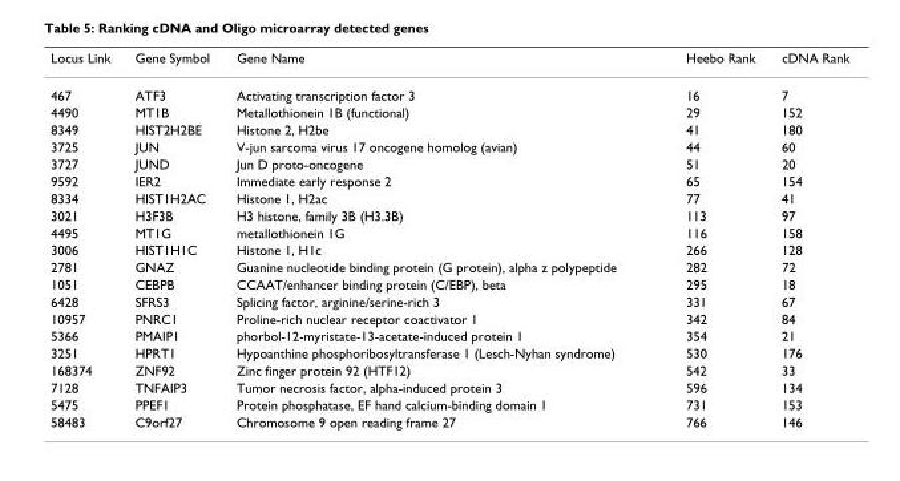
<table><thead><tr><td>Locus Link</td><td>Gene Symbol</td><td>Gene Name</td><td>Heebo Rank</td><td>cDNA Rank</td></tr></thead><tbody><tr><td>467</td><td>ATF3</td><td>Activating transcription factor 3</td><td>16</td><td>7</td></tr><tr><td>4490</td><td>MT1B</td><td>Metallothionein 1B (functional)</td><td>29</td><td>152</td></tr><tr><td>8349</td><td>HIST2H2BE</td><td>Histone 2, H2be</td><td>41</td><td>180</td></tr><tr><td>3725</td><td>JUN</td><td>V-jun sarcoma virus 17 oncogene homolog (avian)</td><td>44</td><td>60</td></tr><tr><td>3727</td><td>JUND</td><td>Jun D proto-oncogene</td><td>51</td><td>20</td></tr><tr><td>9592</td><td>IER2</td><td>Immediate early response 2</td><td>65</td><td>154</td></tr><tr><td>8334</td><td>HIST1H2AC</td><td>Histone 1, H2ac</td><td>77</td><td>41</td></tr><tr><td>3021</td><td>H3F3B</td><td>H3 histone, family 3B (H3.3B)</td><td>113</td><td>97</td></tr><tr><td>4495</td><td>MT1G</td><td>metallothionein 1G</td><td>116</td><td>158</td></tr><tr><td>3006</td><td>HIST1H1C</td><td>Histone 1, H1c</td><td>266</td><td>128</td></tr><tr><td>2781</td><td>GNAZ</td><td>Guanine nucleotide binding protein (G protein), alpha z polypeptide</td><td>282</td><td>72</td></tr><tr><td>1051</td><td>CEBPB</td><td>CCAAT/enhancer binding protein (C/EBP), beta</td><td>295</td><td>18</td></tr><tr><td>6428</td><td>SFRS3</td><td>Splicing factor, arginine/serine-rich 3</td><td>331</td><td>67</td></tr><tr><td>10957</td><td>PNRC1</td><td>Proline-rich nuclear receptor coactivator 1</td><td>342</td><td>84</td></tr><tr><td>5366</td><td>PMAIP1</td><td>phorbol-12-myristate-13-acetate-induced protein 1</td><td>354</td><td>21</td></tr><tr><td>3251</td><td>HPRT1</td><td>Hypoanthine phosphoribosyltransferase 1 (Lesch-Nyhan syndrome)</td><td>530</td><td>176</td></tr><tr><td>168374</td><td>ZNF92</td><td>Zinc finger protein 92 (HTF12)</td><td>542</td><td>33</td></tr><tr><td>7128</td><td>TNFAIP3</td><td>Tumor necrosis factor, alpha-induced protein 3</td><td>596</td><td>134</td></tr><tr><td>5475</td><td>PPEF1</td><td>Protein phosphatase, EF hand calcium-binding domain 1</td><td>731</td><td>153</td></tr><tr><td>58483</td><td>C9orf27</td><td>Chromosome 9 open reading frame 27</td><td>766</td><td>146</td></tr></tbody></table>